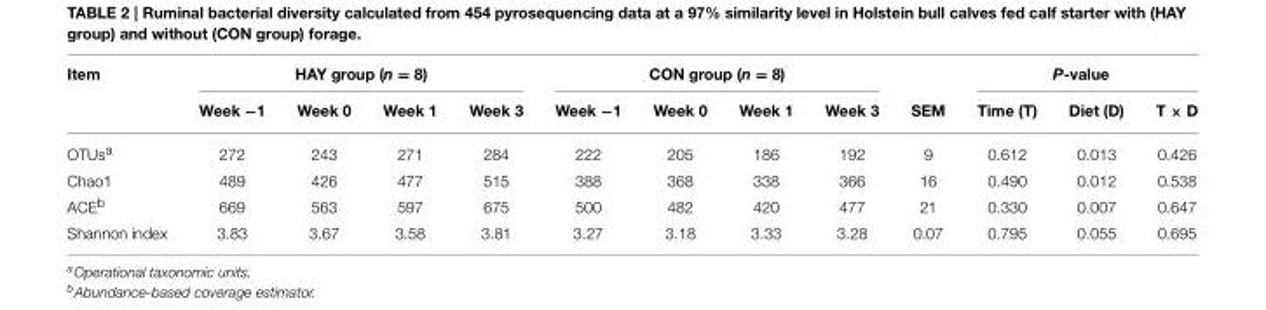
<table><thead><tr><td rowspan="2">Item</td><td colspan="4">HAY group (n = 8)</td><td colspan="4">CON group (n = 8)</td><td rowspan="2">SEM</td><td colspan="3">P-value</td></tr><tr><td>Week −1</td><td>Week 0</td><td>Week 1</td><td>Week 3</td><td>Week −1</td><td>Week 0</td><td>Week 1</td><td>Week 3</td><td>Time (T)</td><td>Diet (D)</td><td>T × D</td></tr></thead><tbody><tr><td>OTUs<sup>a</sup></td><td>272</td><td>243</td><td>271</td><td>284</td><td>222</td><td>205</td><td>186</td><td>192</td><td>9</td><td>0.612</td><td>0.013</td><td>0.426</td></tr><tr><td>Chao1</td><td>489</td><td>426</td><td>477</td><td>515</td><td>388</td><td>368</td><td>338</td><td>366</td><td>16</td><td>0.490</td><td>0.012</td><td>0.538</td></tr><tr><td>ACE<sup>b</sup></td><td>669</td><td>563</td><td>597</td><td>675</td><td>500</td><td>482</td><td>420</td><td>477</td><td>21</td><td>0.330</td><td>0.007</td><td>0.647</td></tr><tr><td>Shannon index</td><td>3.83</td><td>3.67</td><td>3.58</td><td>3.81</td><td>3.27</td><td>3.18</td><td>3.33</td><td>3.28</td><td>0.07</td><td>0.795</td><td>0.055</td><td>0.695</td></tr></tbody></table>